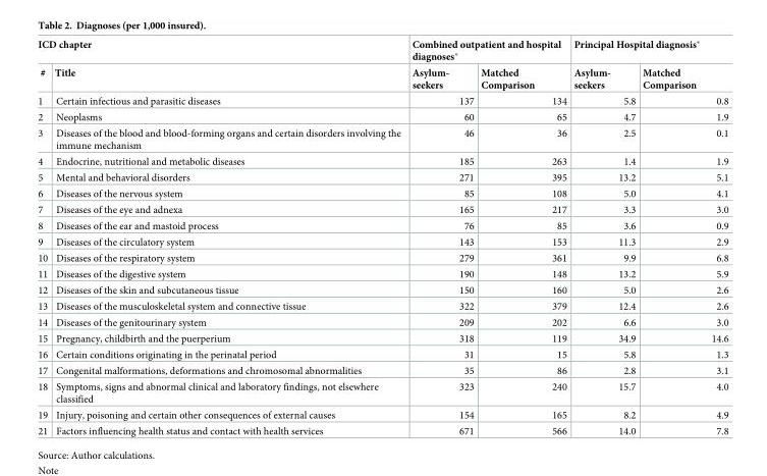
<table><thead><tr><td colspan="2">ICD chapter</td><td colspan="2">Combined outpatient and hospital diagnoses*</td><td colspan="2">Principal Hospital diagnosis*</td></tr><tr><td>#</td><td>Title</td><td>Asylum- seekers</td><td>Matched Comparison</td><td>Asylum- seekers</td><td>Matched Comparison</td></tr></thead><tbody><tr><td>1</td><td>Certain infectious and parasitic diseases</td><td>137</td><td>134</td><td>5.8</td><td>0.8</td></tr><tr><td>2</td><td>Neoplasms</td><td>60</td><td>65</td><td>4.7</td><td>1.9</td></tr><tr><td>3</td><td>Diseases of the blood and blood-forming organs and certain disorders involving the immune mechanism</td><td>46</td><td>36</td><td>2.5</td><td>0.1</td></tr><tr><td>4</td><td>Endocrine, nutritional and metabolic diseases</td><td>185</td><td>263</td><td>1.4</td><td>1.9</td></tr><tr><td>5</td><td>Mental and behavioral disorders</td><td>271</td><td>395</td><td>13.2</td><td>5.1</td></tr><tr><td>6</td><td>Diseases of the nervous system</td><td>85</td><td>108</td><td>5.0</td><td>4.1</td></tr><tr><td>7</td><td>Diseases of the eye and adnexa</td><td>165</td><td>217</td><td>3.3</td><td>3.0</td></tr><tr><td>8</td><td>Diseases of the ear and mastoid process</td><td>76</td><td>85</td><td>3.6</td><td>0.9</td></tr><tr><td>9</td><td>Diseases of the circulatory system</td><td>143</td><td>153</td><td>11.3</td><td>2.9</td></tr><tr><td>10</td><td>Diseases of the respiratory system</td><td>279</td><td>361</td><td>9.9</td><td>6.8</td></tr><tr><td>11</td><td>Diseases of the digestive system</td><td>190</td><td>148</td><td>13.2</td><td>5.9</td></tr><tr><td>12</td><td>Diseases of the skin and subcutaneous tissue</td><td>150</td><td>160</td><td>5.0</td><td>2.6</td></tr><tr><td>13</td><td>Diseases of the musculoskeletal system and connective tissue</td><td>322</td><td>379</td><td>12.4</td><td>2.6</td></tr><tr><td>14</td><td>Diseases of the genitourinary system</td><td>209</td><td>202</td><td>6.6</td><td>3.0</td></tr><tr><td>15</td><td>Pregnancy, childbirth and the puerperium</td><td>318</td><td>119</td><td>34.9</td><td>14.6</td></tr><tr><td>16</td><td>Certain conditions originating in the perinatal period</td><td>31</td><td>15</td><td>5.8</td><td>1.3</td></tr><tr><td>17</td><td>Congenital malformations, deformations and chromosomal abnormalities</td><td>35</td><td>86</td><td>2.8</td><td>3.1</td></tr><tr><td>18</td><td>Symptoms, signs and abnormal clinical and laboratory findings, not elsewhere classified</td><td>323</td><td>240</td><td>15.7</td><td>4.0</td></tr><tr><td>19</td><td>Injury, poisoning and certain other consequences of external causes</td><td>154</td><td>165</td><td>8.2</td><td>4.9</td></tr><tr><td>21</td><td>Factors influencing health status and contact with health services</td><td>671</td><td>566</td><td>14.0</td><td>7.8</td></tr></tbody></table>